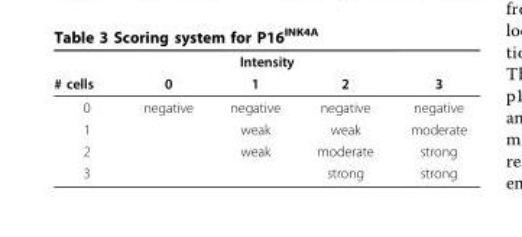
<table><thead><tr><td colspan="5">Intensity</td></tr><tr><td># cells</td><td>0</td><td>1</td><td>2</td><td>3</td></tr></thead><tbody><tr><td>0</td><td>negative</td><td>negative</td><td>negative</td><td>negative</td></tr><tr><td>1</td><td></td><td>weak</td><td>weak</td><td>moderate</td></tr><tr><td>2</td><td></td><td>weak</td><td>moderate</td><td>strong</td></tr><tr><td>3</td><td></td><td></td><td>strong</td><td>strong</td></tr></tbody></table>